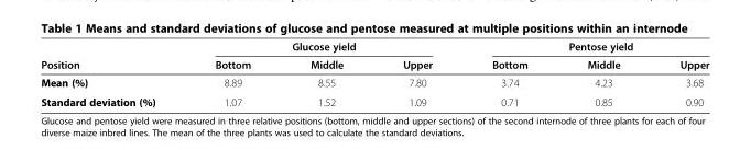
<table><thead><tr><td rowspan="2">Position</td><td colspan="3">Glucose yield</td><td colspan="3">Pentose yield</td></tr><tr><td>Bottom</td><td>Middle</td><td>Upper</td><td>Bottom</td><td>Middle</td><td>Upper</td></tr></thead><tbody><tr><td>Mean (%)</td><td>8.89</td><td>8.55</td><td>7.80</td><td>3.74</td><td>4.23</td><td>3.68</td></tr><tr><td>Standard deviation (%)</td><td>1.07</td><td>1.52</td><td>1.09</td><td>0.71</td><td>0.85</td><td>0.90</td></tr></tbody></table>